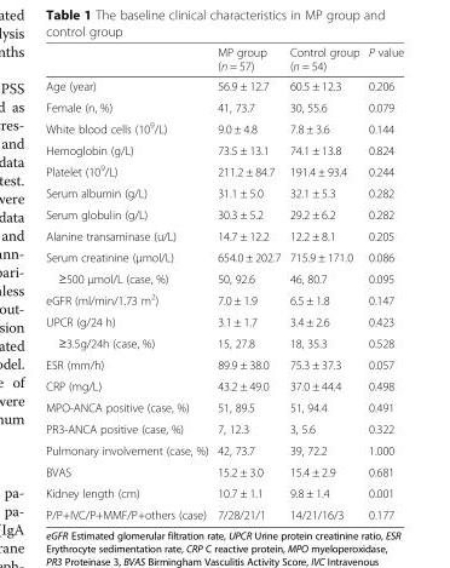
<table><thead><tr><td></td><td>MP group (n = 57)</td><td>Control group (n = 54)</td><td>P value</td></tr></thead><tbody><tr><td>Age (year)</td><td>56.9 ± 12.7</td><td>60.5 ± 12.3</td><td>0.206</td></tr><tr><td>Female (n, %)</td><td>41, 73.7</td><td>30, 55.6</td><td>0.079</td></tr><tr><td>White blood cells (10<sup>9</sup>/L)</td><td>9.0 ± 4.8</td><td>7.8 ± 3.6</td><td>0.144</td></tr><tr><td>Hemoglobin (g/L)</td><td>73.5 ± 13.1</td><td>74.1 ± 13.8</td><td>0.824</td></tr><tr><td>Platelet (10<sup>9</sup>/L)</td><td>211.2 ± 84.7</td><td>191.4 ± 93.4</td><td>0.244</td></tr><tr><td>Serum albumin (g/L)</td><td>31.1 ± 5.0</td><td>32.1 ± 5.3</td><td>0.282</td></tr><tr><td>Serum globulin (g/L)</td><td>30.3 ± 5.2</td><td>29.2 ± 6.2</td><td>0.282</td></tr><tr><td>Alanine transaminase (u/L)</td><td>14.7 ± 12.2</td><td>12.2 ± 8.1</td><td>0.205</td></tr><tr><td>Serum creatinine (μmol/L)</td><td>654.0 ± 202.7</td><td>715.9 ± 171.0</td><td>0.086</td></tr><tr><td>≥500 μmol/L (case, %)</td><td>50, 92.6</td><td>46, 80.7</td><td>0.095</td></tr><tr><td>eGFR (ml/min/1.73 m<sup>2</sup>)</td><td>7.0 ± 1.9</td><td>6.5 ± 1.8</td><td>0.147</td></tr><tr><td>UPCR (g/24 h)</td><td>3.1 ± 1.7</td><td>3.4 ± 2.6</td><td>0.423</td></tr><tr><td>≥3.5g/24h (case, %)</td><td>15, 27.8</td><td>18, 35.3</td><td>0.528</td></tr><tr><td>ESR (mm/h)</td><td>89.9 ± 38.0</td><td>75.3 ± 37.3</td><td>0.057</td></tr><tr><td>CRP (mg/L)</td><td>43.2 ± 49.0</td><td>37.0 ± 44.4</td><td>0.498</td></tr><tr><td>MPO-ANCA positive (case, %)</td><td>51, 89.5</td><td>51, 94.4</td><td>0.491</td></tr><tr><td>PR3-ANCA positive (case, %)</td><td>7, 12.3</td><td>3, 5.6</td><td>0.322</td></tr><tr><td>Pulmonary involvement (case, %)</td><td>42, 73.7</td><td>39, 72.2</td><td>1.000</td></tr><tr><td>BVAS</td><td>15.2 ± 3.0</td><td>15.4 ± 2.9</td><td>0.681</td></tr><tr><td>Kidney length (cm)</td><td>10.7 ± 1.1</td><td>9.8 ± 1.4</td><td>0.001</td></tr><tr><td>P/P+IVC/P+MMF/P+others (case)</td><td>7/28/21/1</td><td>14/21/16/3</td><td>0.177</td></tr></tbody></table>